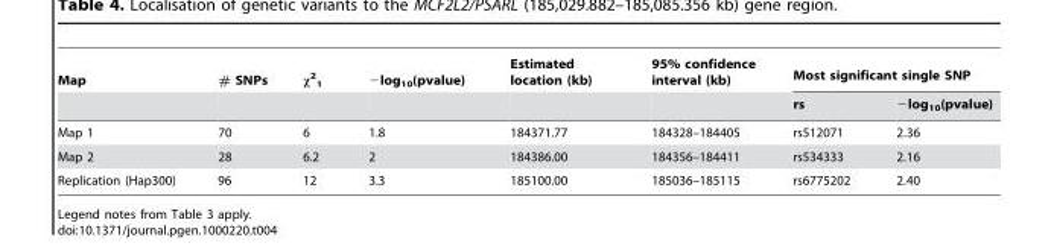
<table><thead><tr><td rowspan="2">Map</td><td rowspan="2"># SNPs</td><td rowspan="2">χ<sup>2</sup> <sub>1</sub></td><td rowspan="2">−log<sub>10</sub>(pvalue)</td><td rowspan="2">Estimated location (kb)</td><td rowspan="2">95% confidence interval (kb)</td><td colspan="2">Most significant single SNP</td></tr><tr><td>rs</td><td>−log<sub>10</sub>(pvalue)</td></tr></thead><tbody><tr><td>Map 1</td><td>70</td><td>6</td><td>1.8</td><td>184371.77</td><td>184328–184405</td><td>rs512071</td><td>2.36</td></tr><tr><td>Map 2</td><td>28</td><td>6.2</td><td>2</td><td>184386.00</td><td>184356–184411</td><td>rs534333</td><td>2.16</td></tr><tr><td>Replication (Hap300)</td><td>96</td><td>12</td><td>3.3</td><td>185100.00</td><td>185036–185115</td><td>rs6775202</td><td>2.40</td></tr></tbody></table>